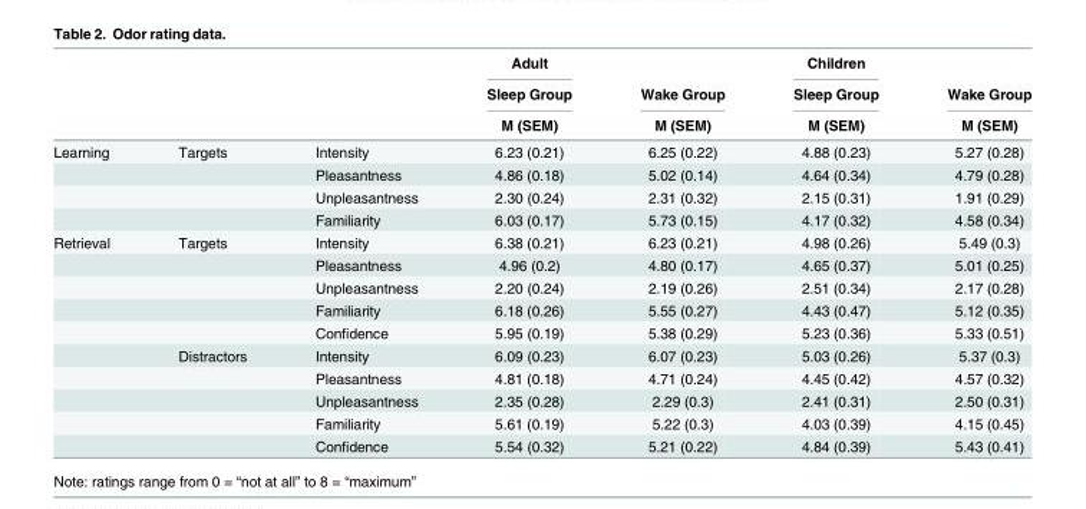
<table><thead><tr><td rowspan="3"></td><td rowspan="3"></td><td rowspan="3"></td><td rowspan="3">Adult Sleep Group M (SEM)</td><td rowspan="3">Wake Group M (SEM)</td><td rowspan="3">Children Sleep Group M (SEM)</td><td rowspan="3">Wake Group M (SEM)</td></tr><tr></tr><tr></tr></thead><tbody><tr><td rowspan="4">Learning</td><td>Targets</td><td>Intensity</td><td>6.23 (0.21)</td><td>6.25 (0.22)</td><td>4.88 (0.23)</td><td>5.27 (0.28)</td></tr><tr><td></td><td>Pleasantness</td><td>4.86 (0.18)</td><td>5.02 (0.14)</td><td>4.64 (0.34)</td><td>4.79 (0.28)</td></tr><tr><td></td><td>Unpleasantness</td><td>2.30 (0.24)</td><td>2.31 (0.32)</td><td>2.15 (0.31)</td><td>1.91 (0.29)</td></tr><tr><td></td><td>Familiarity</td><td>6.03 (0.17)</td><td>5.73 (0.15)</td><td>4.17 (0.32)</td><td>4.58 (0.34)</td></tr><tr><td rowspan="10">Retrieval</td><td>Targets</td><td>Intensity</td><td>6.38 (0.21)</td><td>6.23 (0.21)</td><td>4.98 (0.26)</td><td>5.49 (0.3)</td></tr><tr><td></td><td>Pleasantness</td><td>4.96 (0.2)</td><td>4.80 (0.17)</td><td>4.65 (0.37)</td><td>5.01 (0.25)</td></tr><tr><td></td><td>Unpleasantness</td><td>2.20 (0.24)</td><td>2.19 (0.26)</td><td>2.51 (0.34)</td><td>2.17 (0.28)</td></tr><tr><td></td><td>Familiarity</td><td>6.18 (0.26)</td><td>5.55 (0.27)</td><td>4.43 (0.47)</td><td>5.12 (0.35)</td></tr><tr><td></td><td>Confidence</td><td>5.95 (0.19)</td><td>5.38 (0.29)</td><td>5.23 (0.36)</td><td>5.33 (0.51)</td></tr><tr><td>Distractors</td><td>Intensity</td><td>6.09 (0.23)</td><td>6.07 (0.23)</td><td>5.03 (0.26)</td><td>5.37 (0.3)</td></tr><tr><td></td><td>Pleasantness</td><td>4.81 (0.18)</td><td>4.71 (0.24)</td><td>4.45 (0.42)</td><td>4.57 (0.32)</td></tr><tr><td></td><td>Unpleasantness</td><td>2.35 (0.28)</td><td>2.29 (0.3)</td><td>2.41 (0.31)</td><td>2.50 (0.31)</td></tr><tr><td></td><td>Familiarity</td><td>5.61 (0.19)</td><td>5.22 (0.3)</td><td>4.03 (0.39)</td><td>4.15 (0.45)</td></tr><tr><td></td><td>Confidence</td><td>5.54 (0.32)</td><td>5.21 (0.22)</td><td>4.84 (0.39)</td><td>5.43 (0.41)</td></tr></tbody></table>